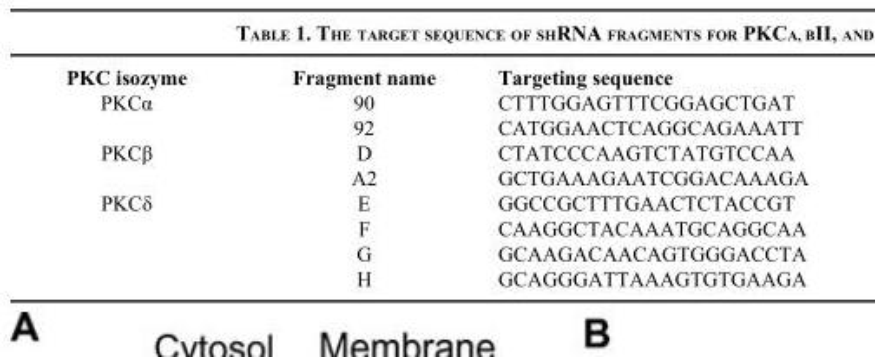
<table><thead><tr><td>PKC isozyme</td><td>Fragment name</td><td>Targeting sequence</td></tr></thead><tbody><tr><td rowspan="2">PKCα</td><td>90</td><td>CTTTGGAGTTTCGGAGCTGAT</td></tr><tr><td>92</td><td>CATGGAACTCAGGCAGAAATT</td></tr><tr><td rowspan="2">PKCβ</td><td>D</td><td>CTATCCCAAGTCTATGTCCAA</td></tr><tr><td>A2</td><td>GCTGAAAGAATCGGACAAAGA</td></tr><tr><td rowspan="4">PKCδ</td><td>E</td><td>GGCCGCTTTGAACTCTACCGT</td></tr><tr><td>F</td><td>CAAGGCTACAAATGCAGGCAA</td></tr><tr><td>G</td><td>GCAAGACAACAGTGGGACCTA</td></tr><tr><td>H</td><td>GCAGGGATTAAAGTGTGAAGA</td></tr></tbody></table>